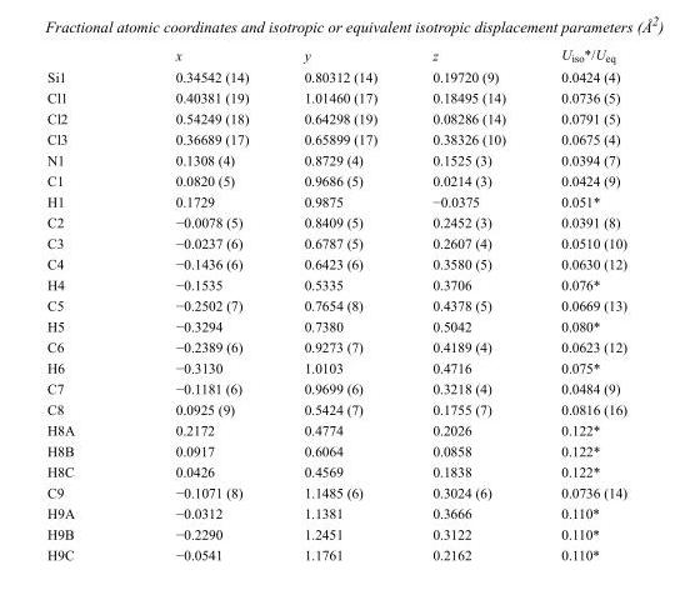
<table><thead><tr><td></td><td>x</td><td>y</td><td>z</td><td>U<sub>iso</sub>*/U<sub>eq</sub></td></tr></thead><tbody><tr><td>Si1</td><td>0.34542 (14)</td><td>0.80312 (14)</td><td>0.19720 (9)</td><td>0.0424 (4)</td></tr><tr><td>Cl1</td><td>0.40381 (19)</td><td>1.01460 (17)</td><td>0.18495 (14)</td><td>0.0736 (5)</td></tr><tr><td>Cl2</td><td>0.54249 (18)</td><td>0.64298 (19)</td><td>0.08286 (14)</td><td>0.0791 (5)</td></tr><tr><td>Cl3</td><td>0.36689 (17)</td><td>0.65899 (17)</td><td>0.38326 (10)</td><td>0.0675 (4)</td></tr><tr><td>N1</td><td>0.1308 (4)</td><td>0.8729 (4)</td><td>0.1525 (3)</td><td>0.0394 (7)</td></tr><tr><td>C1</td><td>0.0820 (5)</td><td>0.9686 (5)</td><td>0.0214 (3)</td><td>0.0424 (9)</td></tr><tr><td>H1</td><td>0.1729</td><td>0.9875</td><td>−0.0375</td><td>0.051*</td></tr><tr><td>C2</td><td>−0.0078 (5)</td><td>0.8409 (5)</td><td>0.2452 (3)</td><td>0.0391 (8)</td></tr><tr><td>C3</td><td>−0.0237 (6)</td><td>0.6787 (5)</td><td>0.2607 (4)</td><td>0.0510 (10)</td></tr><tr><td>C4</td><td>−0.1436 (6)</td><td>0.6423 (6)</td><td>0.3580 (5)</td><td>0.0630 (12)</td></tr><tr><td>H4</td><td>−0.1535</td><td>0.5335</td><td>0.3706</td><td>0.076*</td></tr><tr><td>C5</td><td>−0.2502 (7)</td><td>0.7654 (8)</td><td>0.4378 (5)</td><td>0.0669 (13)</td></tr><tr><td>H5</td><td>−0.3294</td><td>0.7380</td><td>0.5042</td><td>0.080*</td></tr><tr><td>C6</td><td>−0.2389 (6)</td><td>0.9273 (7)</td><td>0.4189 (4)</td><td>0.0623 (12)</td></tr><tr><td>H6</td><td>−0.3130</td><td>1.0103</td><td>0.4716</td><td>0.075*</td></tr><tr><td>C7</td><td>−0.1181 (6)</td><td>0.9699 (6)</td><td>0.3218 (4)</td><td>0.0484 (9)</td></tr><tr><td>C8</td><td>0.0925 (9)</td><td>0.5424 (7)</td><td>0.1755 (7)</td><td>0.0816 (16)</td></tr><tr><td>H8A</td><td>0.2172</td><td>0.4774</td><td>0.2026</td><td>0.122*</td></tr><tr><td>H8B</td><td>0.0917</td><td>0.6064</td><td>0.0858</td><td>0.122*</td></tr><tr><td>H8C</td><td>0.0426</td><td>0.4569</td><td>0.1838</td><td>0.122*</td></tr><tr><td>C9</td><td>−0.1071 (8)</td><td>1.1485 (6)</td><td>0.3024 (6)</td><td>0.0736 (14)</td></tr><tr><td>H9A</td><td>−0.0312</td><td>1.1381</td><td>0.3666</td><td>0.110*</td></tr><tr><td>H9B</td><td>−0.2290</td><td>1.2451</td><td>0.3122</td><td>0.110*</td></tr><tr><td>H9C</td><td>−0.0541</td><td>1.1761</td><td>0.2162</td><td>0.110*</td></tr></tbody></table>